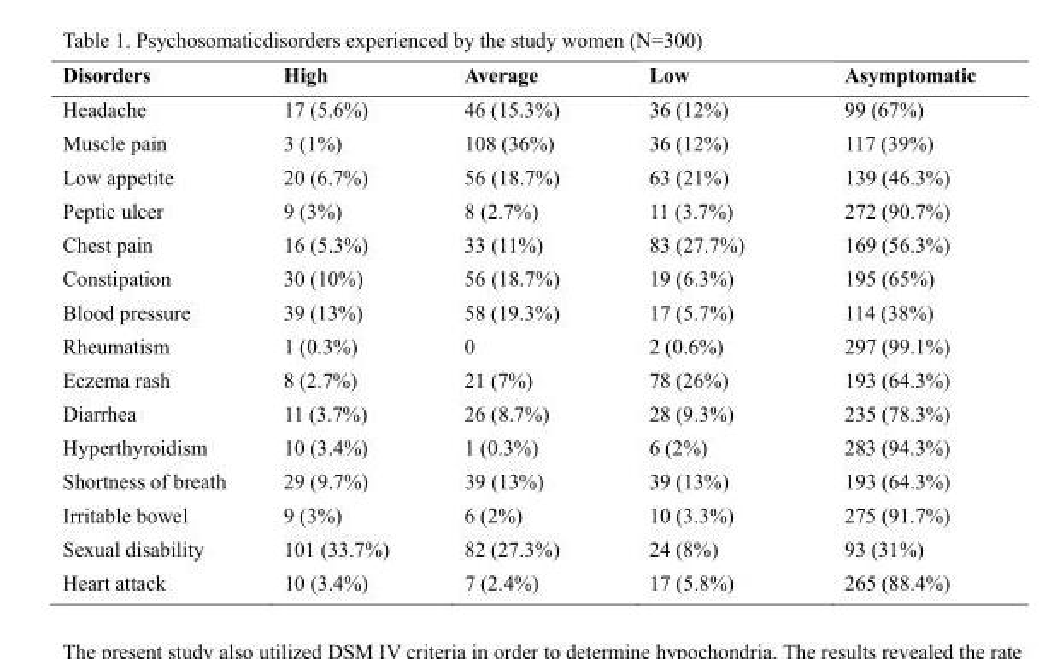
<table><thead><tr><td>Disorders</td><td>High</td><td>Average</td><td>Low</td><td>Asymptomatic</td></tr></thead><tbody><tr><td>Headache</td><td>17 (5.6%)</td><td>46 (15.3%)</td><td>36 (12%)</td><td>99 (67%)</td></tr><tr><td>Muscle pain</td><td>3 (1%)</td><td>108 (36%)</td><td>36 (12%)</td><td>117 (39%)</td></tr><tr><td>Low appetite</td><td>20 (6.7%)</td><td>56 (18.7%)</td><td>63 (21%)</td><td>139 (46.3%)</td></tr><tr><td>Peptic ulcer</td><td>9 (3%)</td><td>8 (2.7%)</td><td>11 (3.7%)</td><td>272 (90.7%)</td></tr><tr><td>Chest pain</td><td>16 (5.3%)</td><td>33 (11%)</td><td>83 (27.7%)</td><td>169 (56.3%)</td></tr><tr><td>Constipation</td><td>30 (10%)</td><td>56 (18.7%)</td><td>19 (6.3%)</td><td>195 (65%)</td></tr><tr><td>Blood pressure</td><td>39 (13%)</td><td>58 (19.3%)</td><td>17 (5.7%)</td><td>114 (38%)</td></tr><tr><td>Rheumatism</td><td>1 (0.3%)</td><td>0</td><td>2 (0.6%)</td><td>297 (99.1%)</td></tr><tr><td>Eczema rash</td><td>8 (2.7%)</td><td>21 (7%)</td><td>78 (26%)</td><td>193 (64.3%)</td></tr><tr><td>Diarrhea</td><td>11 (3.7%)</td><td>26 (8.7%)</td><td>28 (9.3%)</td><td>235 (78.3%)</td></tr><tr><td>Hyperthyroidism</td><td>10 (3.4%)</td><td>1 (0.3%)</td><td>6 (2%)</td><td>283 (94.3%)</td></tr><tr><td>Shortness of breath</td><td>29 (9.7%)</td><td>39 (13%)</td><td>39 (13%)</td><td>193 (64.3%)</td></tr><tr><td>Irritable bowel</td><td>9 (3%)</td><td>6 (2%)</td><td>10 (3.3%)</td><td>275 (91.7%)</td></tr><tr><td>Sexual disability</td><td>101 (33.7%)</td><td>82 (27.3%)</td><td>24 (8%)</td><td>93 (31%)</td></tr><tr><td>Heart attack</td><td>10 (3.4%)</td><td>7 (2.4%)</td><td>17 (5.8%)</td><td>265 (88.4%)</td></tr></tbody></table>